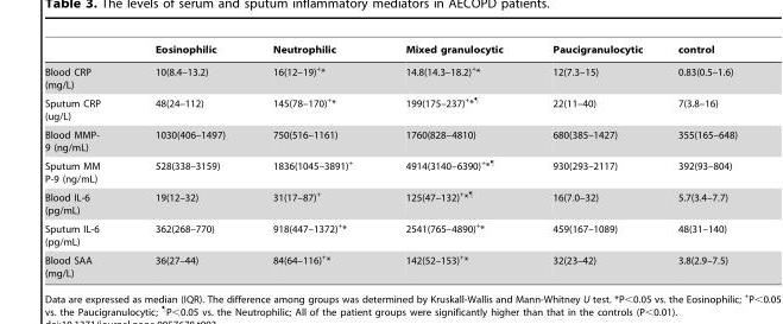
<table><thead><tr><td></td><td>Eosinophilic</td><td>Neutrophilic</td><td>Mixed granulocytic</td><td>Paucigranulocytic</td><td>control</td></tr></thead><tbody><tr><td>Blood CRP (mg/L)</td><td>10(8.4–13.2)</td><td>16(12–19)<sup>+</sup>*</td><td>14.8(14.3–18.2)<sup>+</sup>*</td><td>12(7.3–15)</td><td>0.83(0.5–1.6)</td></tr><tr><td>Sputum CRP (ug/L)</td><td>48(24–112)</td><td>145(78–170)<sup>+</sup>*</td><td>199(175–237)<sup>+</sup>*<sup>¶</sup></td><td>22(11–40)</td><td>7(3.8–16)</td></tr><tr><td>Blood MMP- 9 (ng/mL)</td><td>1030(406–1497)</td><td>750(516–1161)</td><td>1760(828–4810)</td><td>680(385–1427)</td><td>355(165–648)</td></tr><tr><td>Sputum MM P-9 (ng/mL)</td><td>528(338–3159)</td><td>1836(1045–3891)<sup>+</sup></td><td>4914(3140–6390)<sup>+</sup>*<sup>¶</sup></td><td>930(293–2117)</td><td>392(93–804)</td></tr><tr><td>Blood IL-6 (pg/mL)</td><td>19(12–32)</td><td>31(17–87)<sup>+</sup></td><td>125(47–132)<sup>+</sup>*<sup>¶</sup></td><td>16(7.0–32)</td><td>5.7(3.4–7.7)</td></tr><tr><td>Sputum IL-6 (pg/mL)</td><td>362(268–770)</td><td>918(447–1372)<sup>+</sup>*</td><td>2541(765–4890)<sup>+</sup>*</td><td>459(167–1089)</td><td>48(31–140)</td></tr><tr><td>Blood SAA (mg/L)</td><td>36(27–44)</td><td>84(64–116)<sup>+</sup>*</td><td>142(52–153)<sup>+</sup>*</td><td>32(23–42)</td><td>3.8(2.9–7.5)</td></tr></tbody></table>